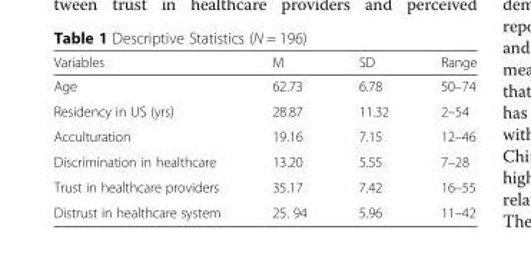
<table><thead><tr><td>Variables</td><td>M</td><td>SD</td><td>Range</td></tr></thead><tbody><tr><td>Age</td><td>62.73</td><td>6.78</td><td>50–74</td></tr><tr><td>Residency in US (yrs)</td><td>28.87</td><td>11.32</td><td>2–54</td></tr><tr><td>Acculturation</td><td>19.16</td><td>7.15</td><td>12–46</td></tr><tr><td>Discrimination in healthcare</td><td>13.20</td><td>5.55</td><td>7–28</td></tr><tr><td>Trust in healthcare providers</td><td>35.17</td><td>7.42</td><td>16–55</td></tr><tr><td>Distrust in healthcare system</td><td>25. 94</td><td>5.96</td><td>11–42</td></tr></tbody></table>